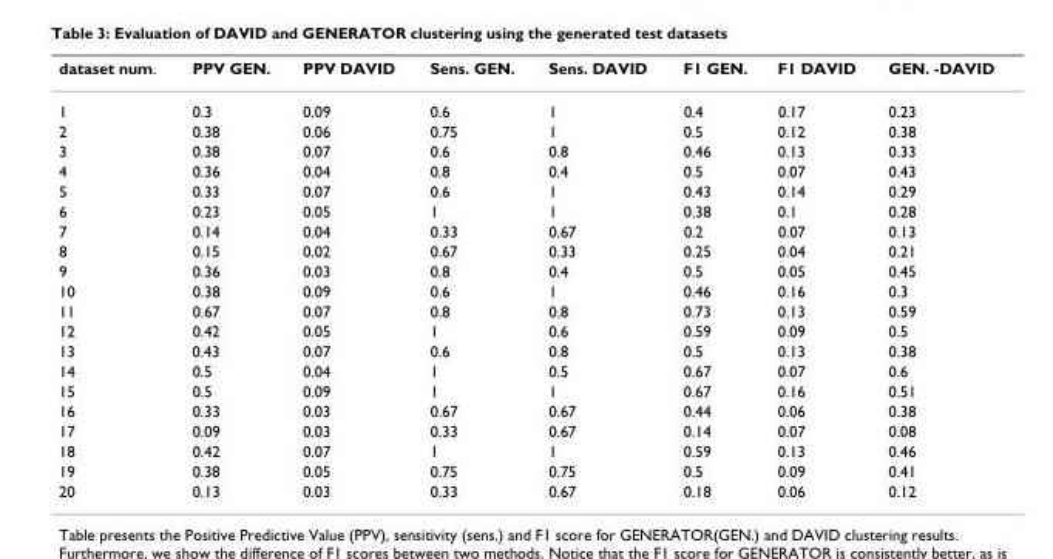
<table><thead><tr><td>dataset num.</td><td>PPV GEN.</td><td>PPV DAVID</td><td>Sens. GEN.</td><td>Sens. DAVID</td><td>F1 GEN.</td><td>F1 DAVID</td><td>GEN. -DAVID</td></tr></thead><tbody><tr><td>1</td><td>0.3</td><td>0.09</td><td>0.6</td><td>1</td><td>0.4</td><td>0.17</td><td>0.23</td></tr><tr><td>2</td><td>0.38</td><td>0.06</td><td>0.75</td><td>1</td><td>0.5</td><td>0.12</td><td>0.38</td></tr><tr><td>3</td><td>0.38</td><td>0.07</td><td>0.6</td><td>0.8</td><td>0.46</td><td>0.13</td><td>0.33</td></tr><tr><td>4</td><td>0.36</td><td>0.04</td><td>0.8</td><td>0.4</td><td>0.5</td><td>0.07</td><td>0.43</td></tr><tr><td>5</td><td>0.33</td><td>0.07</td><td>0.6</td><td>1</td><td>0.43</td><td>0.14</td><td>0.29</td></tr><tr><td>6</td><td>0.23</td><td>0.05</td><td>1</td><td>1</td><td>0.38</td><td>0.1</td><td>0.28</td></tr><tr><td>7</td><td>0.14</td><td>0.04</td><td>0.33</td><td>0.67</td><td>0.2</td><td>0.07</td><td>0.13</td></tr><tr><td>8</td><td>0.15</td><td>0.02</td><td>0.67</td><td>0.33</td><td>0.25</td><td>0.04</td><td>0.21</td></tr><tr><td>9</td><td>0.36</td><td>0.03</td><td>0.8</td><td>0.4</td><td>0.5</td><td>0.05</td><td>0.45</td></tr><tr><td>10</td><td>0.38</td><td>0.09</td><td>0.6</td><td>1</td><td>0.46</td><td>0.16</td><td>0.3</td></tr><tr><td>11</td><td>0.67</td><td>0.07</td><td>0.8</td><td>0.8</td><td>0.73</td><td>0.13</td><td>0.59</td></tr><tr><td>12</td><td>0.42</td><td>0.05</td><td>1</td><td>0.6</td><td>0.59</td><td>0.09</td><td>0.5</td></tr><tr><td>13</td><td>0.43</td><td>0.07</td><td>0.6</td><td>0.8</td><td>0.5</td><td>0.13</td><td>0.38</td></tr><tr><td>14</td><td>0.5</td><td>0.04</td><td>1</td><td>0.5</td><td>0.67</td><td>0.07</td><td>0.6</td></tr><tr><td>15</td><td>0.5</td><td>0.09</td><td>1</td><td>1</td><td>0.67</td><td>0.16</td><td>0.51</td></tr><tr><td>16</td><td>0.33</td><td>0.03</td><td>0.67</td><td>0.67</td><td>0.44</td><td>0.06</td><td>0.38</td></tr><tr><td>17</td><td>0.09</td><td>0.03</td><td>0.33</td><td>0.67</td><td>0.14</td><td>0.07</td><td>0.08</td></tr><tr><td>18</td><td>0.42</td><td>0.07</td><td>1</td><td>1</td><td>0.59</td><td>0.13</td><td>0.46</td></tr><tr><td>19</td><td>0.38</td><td>0.05</td><td>0.75</td><td>0.75</td><td>0.5</td><td>0.09</td><td>0.41</td></tr><tr><td>20</td><td>0.13</td><td>0.03</td><td>0.33</td><td>0.67</td><td>0.18</td><td>0.06</td><td>0.12</td></tr></tbody></table>